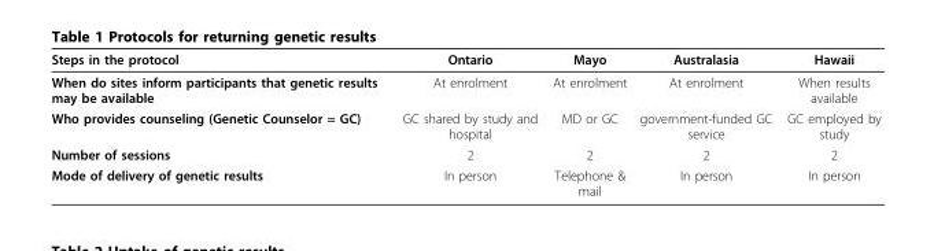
<table><thead><tr><td>Steps in the protocol</td><td>Ontario</td><td>Mayo</td><td>Australasia</td><td>Hawaii</td></tr></thead><tbody><tr><td>When do sites inform participants that genetic results may be available</td><td>At enrolment</td><td>At enrolment</td><td>At enrolment</td><td>When results available</td></tr><tr><td>Who provides counseling (Genetic Counselor = GC)</td><td>GC shared by study and hospital</td><td>MD or GC</td><td>government-funded GC service</td><td>GC employed by study</td></tr><tr><td>Number of sessions</td><td>2</td><td>2</td><td>2</td><td>2</td></tr><tr><td>Mode of delivery of genetic results</td><td>In person</td><td>Telephone &amp; mail</td><td>In person</td><td>In person</td></tr></tbody></table>